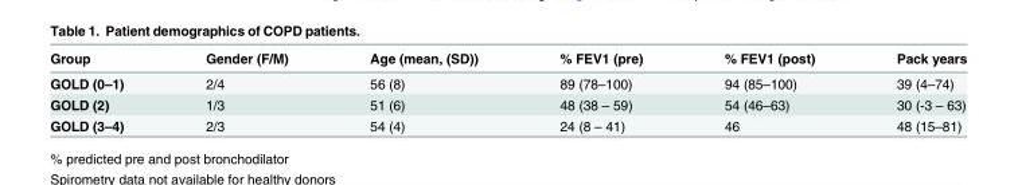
<table><thead><tr><td>Group</td><td>Gender (F/M)</td><td>Age (mean, (SD))</td><td>% FEV1 (pre)</td><td>% FEV1 (post)</td><td>Pack years</td></tr></thead><tbody><tr><td>GOLD (0–1)</td><td>2/4</td><td>56 (8)</td><td>89 (78–100)</td><td>94 (85–100)</td><td>39 (4–74)</td></tr><tr><td>GOLD (2)</td><td>1/3</td><td>51 (6)</td><td>48 (38 – 59)</td><td>54 (46–63)</td><td>30 (-3 – 63)</td></tr><tr><td>GOLD (3–4)</td><td>2/3</td><td>54 (4)</td><td>24 (8 – 41)</td><td>46</td><td>48 (15–81)</td></tr></tbody></table>